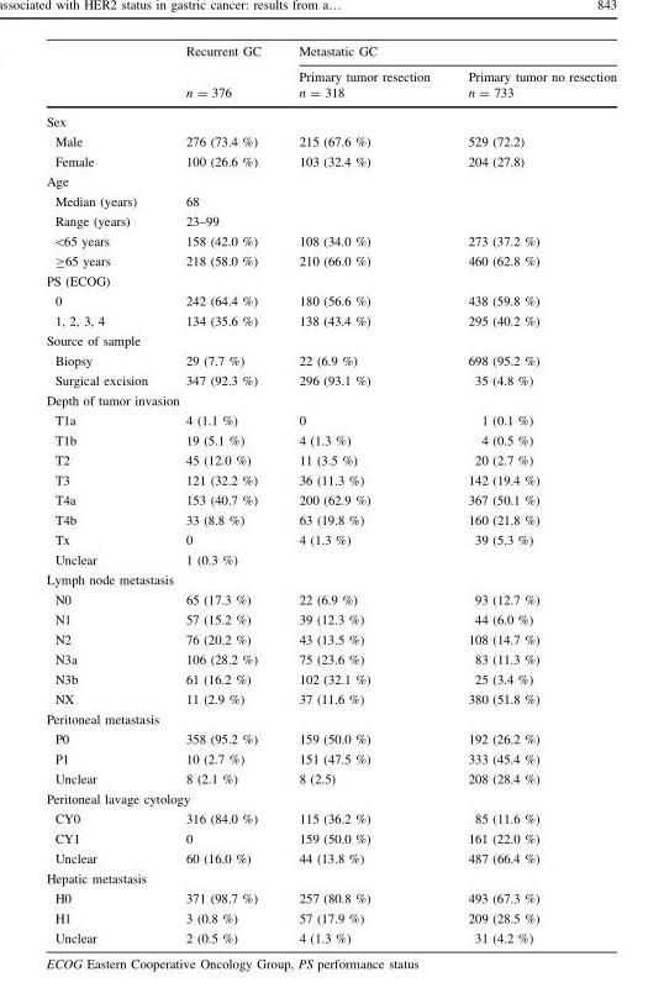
<table><thead><tr><td rowspan="3"></td><td rowspan="3">Recurrent GC n = 376</td><td colspan="2">Metastatic GC</td></tr><tr><td rowspan="2">Primary tumor resection n = 318</td><td rowspan="2">Primary tumor no resection n = 733</td></tr><tr></tr></thead><tbody><tr><td colspan="4">Sex</td></tr><tr><td>Male</td><td>276 (73.4 %)</td><td>215 (67.6 %)</td><td>529 (72.2)</td></tr><tr><td>Female</td><td>100 (26.6 %)</td><td>103 (32.4 %)</td><td>204 (27.8)</td></tr><tr><td colspan="4">Age</td></tr><tr><td>Median (years)</td><td colspan="3">68</td></tr><tr><td>Range (years)</td><td colspan="3">23–99</td></tr><tr><td>&lt;65 years</td><td>158 (42.0 %)</td><td>108 (34.0 %)</td><td>273 (37.2 %)</td></tr><tr><td>≥65 years</td><td>218 (58.0 %)</td><td>210 (66.0 %)</td><td>460 (62.8 %)</td></tr><tr><td colspan="4">PS (ECOG)</td></tr><tr><td>0</td><td>242 (64.4 %)</td><td>180 (56.6 %)</td><td>438 (59.8 %)</td></tr><tr><td>1, 2, 3, 4</td><td>134 (35.6 %)</td><td>138 (43.4 %)</td><td>295 (40.2 %)</td></tr><tr><td colspan="4">Source of sample</td></tr><tr><td>Biopsy</td><td>29 (7.7 %)</td><td>22 (6.9 %)</td><td>698 (95.2 %)</td></tr><tr><td>Surgical excision</td><td>347 (92.3 %)</td><td>296 (93.1 %)</td><td>35 (4.8 %)</td></tr><tr><td colspan="4">Depth of tumor invasion</td></tr><tr><td>T1a</td><td>4 (1.1 %)</td><td>0</td><td>1 (0.1 %)</td></tr><tr><td>T1b</td><td>19 (5.1 %)</td><td>4 (1.3 %)</td><td>4 (0.5 %)</td></tr><tr><td>T2</td><td>45 (12.0 %)</td><td>11 (3.5 %)</td><td>20 (2.7 %)</td></tr><tr><td>T3</td><td>121 (32.2 %)</td><td>36 (11.3 %)</td><td>142 (19.4 %)</td></tr><tr><td>T4a</td><td>153 (40.7 %)</td><td>200 (62.9 %)</td><td>367 (50.1 %)</td></tr><tr><td>T4b</td><td>33 (8.8 %)</td><td>63 (19.8 %)</td><td>160 (21.8 %)</td></tr><tr><td>Tx</td><td>0</td><td>4 (1.3 %)</td><td>39 (5.3 %)</td></tr><tr><td>Unclear</td><td>1 (0.3 %)</td><td></td><td></td></tr><tr><td colspan="4">Lymph node metastasis</td></tr><tr><td>N0</td><td>65 (17.3 %)</td><td>22 (6.9 %)</td><td>93 (12.7 %)</td></tr><tr><td>N1</td><td>57 (15.2 %)</td><td>39 (12.3 %)</td><td>44 (6.0 %)</td></tr><tr><td>N2</td><td>76 (20.2 %)</td><td>43 (13.5 %)</td><td>108 (14.7 %)</td></tr><tr><td>N3a</td><td>106 (28.2 %)</td><td>75 (23.6 %)</td><td>83 (11.3 %)</td></tr><tr><td>N3b</td><td>61 (16.2 %)</td><td>102 (32.1 %)</td><td>25 (3.4 %)</td></tr><tr><td>NX</td><td>11 (2.9 %)</td><td>37 (11.6 %)</td><td>380 (51.8 %)</td></tr><tr><td colspan="4">Peritoneal metastasis</td></tr><tr><td>P0</td><td>358 (95.2 %)</td><td>159 (50.0 %)</td><td>192 (26.2 %)</td></tr><tr><td>P1</td><td>10 (2.7 %)</td><td>151 (47.5 %)</td><td>333 (45.4 %)</td></tr><tr><td>Unclear</td><td>8 (2.1 %)</td><td>8 (2.5)</td><td>208 (28.4 %)</td></tr><tr><td colspan="4">Peritoneal lavage cytology</td></tr><tr><td>CY0</td><td>316 (84.0 %)</td><td>115 (36.2 %)</td><td>85 (11.6 %)</td></tr><tr><td>CY1</td><td>0</td><td>159 (50.0 %)</td><td>161 (22.0 %)</td></tr><tr><td>Unclear</td><td>60 (16.0 %)</td><td>44 (13.8 %)</td><td>487 (66.4 %)</td></tr><tr><td colspan="4">Hepatic metastasis</td></tr><tr><td>H0</td><td>371 (98.7 %)</td><td>257 (80.8 %)</td><td>493 (67.3 %)</td></tr><tr><td>H1</td><td>3 (0.8 %)</td><td>57 (17.9 %)</td><td>209 (28.5 %)</td></tr><tr><td>Unclear</td><td>2 (0.5 %)</td><td>4 (1.3 %)</td><td>31 (4.2 %)</td></tr></tbody></table>